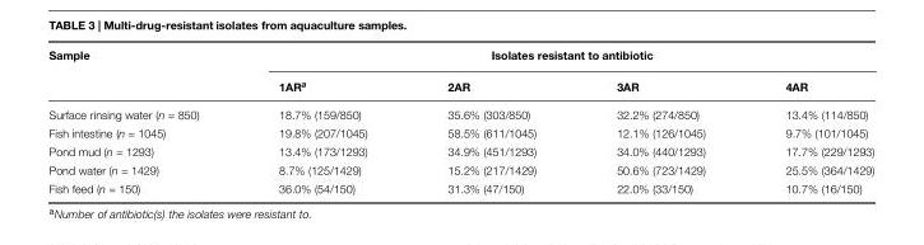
<table><thead><tr><td rowspan="2">Sample</td><td colspan="4">Isolates resistant to antibiotic</td></tr><tr><td>1AR<sup>a</sup></td><td>2AR</td><td>3AR</td><td>4AR</td></tr></thead><tbody><tr><td>Surface rinsing water (n = 850)</td><td>18.7% (159/850)</td><td>35.6% (303/850)</td><td>32.2% (274/850)</td><td>13.4% (114/850)</td></tr><tr><td>Fish intestine (n = 1045)</td><td>19.8% (207/1045)</td><td>58.5% (611/1045)</td><td>12.1% (126/1045)</td><td>9.7% (101/1045)</td></tr><tr><td>Pond mud (n = 1293)</td><td>13.4% (173/1293)</td><td>34.9% (451/1293)</td><td>34.0% (440/1293)</td><td>17.7% (229/1293)</td></tr><tr><td>Pond water (n = 1429)</td><td>8.7% (125/1429)</td><td>15.2% (217/1429)</td><td>50.6% (723/1429)</td><td>25.5% (364/1429)</td></tr><tr><td>Fish feed (n = 150)</td><td>36.0% (54/150)</td><td>31.3% (47/150)</td><td>22.0% (33/150)</td><td>10.7% (16/150)</td></tr></tbody></table>